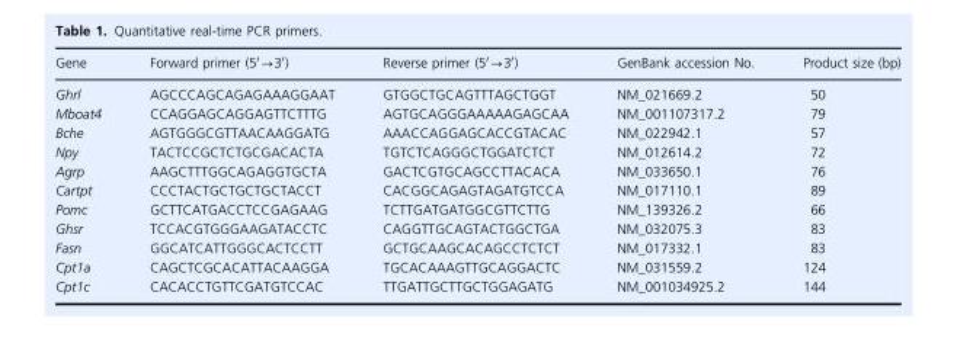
<table><thead><tr><td>Gene</td><td>Forward primer (5′→3′)</td><td>Reverse primer (5′→3′)</td><td>GenBank accession No.</td><td>Product size (bp)</td></tr></thead><tbody><tr><td>Ghrl</td><td>AGCCCAGCAGAGAAAGGAAT</td><td>GTGGCTGCAGTTTAGCTGGT</td><td>NM_021669.2</td><td>50</td></tr><tr><td>Mboat4</td><td>CCAGGAGCAGGAGTTCTTTG</td><td>AGTGCAGGGAAAAAGAGCAA</td><td>NM_001107317.2</td><td>79</td></tr><tr><td>Bche</td><td>AGTGGGCGTTAACAAGGATG</td><td>AAACCAGGAGCACCGTACAC</td><td>NM_022942.1</td><td>57</td></tr><tr><td>Npy</td><td>TACTCCGCTCTGCGACACTA</td><td>TGTCTCAGGGCTGGATCTCT</td><td>NM_012614.2</td><td>72</td></tr><tr><td>Agrp</td><td>AAGCTTTGGCAGAGGTGCTA</td><td>GACTCGTGCAGCCTTACACA</td><td>NM_033650.1</td><td>76</td></tr><tr><td>Cartpt</td><td>CCCTACTGCTGCTGCTACCT</td><td>CACGGCAGAGTAGATGTCCA</td><td>NM_017110.1</td><td>89</td></tr><tr><td>Pomc</td><td>GCTTCATGACCTCCGAGAAG</td><td>TCTTGATGATGGCGTTCTTG</td><td>NM_139326.2</td><td>66</td></tr><tr><td>Ghsr</td><td>TCCACGTGGGAAGATACCTC</td><td>CAGGTTGCAGTACTGGCTGA</td><td>NM_032075.3</td><td>83</td></tr><tr><td>Fasn</td><td>GGCATCATTGGGCACTCCTT</td><td>GCTGCAAGCACAGCCTCTCT</td><td>NM_017332.1</td><td>83</td></tr><tr><td>Cpt1a</td><td>CAGCTCGCACATTACAAGGA</td><td>TGCACAAAGTTGCAGGACTC</td><td>NM_031559.2</td><td>124</td></tr><tr><td>Cpt1c</td><td>CACACCTGTTCGATGTCCAC</td><td>TTGATTGCTTGCTGGAGATG</td><td>NM_001034925.2</td><td>144</td></tr></tbody></table>